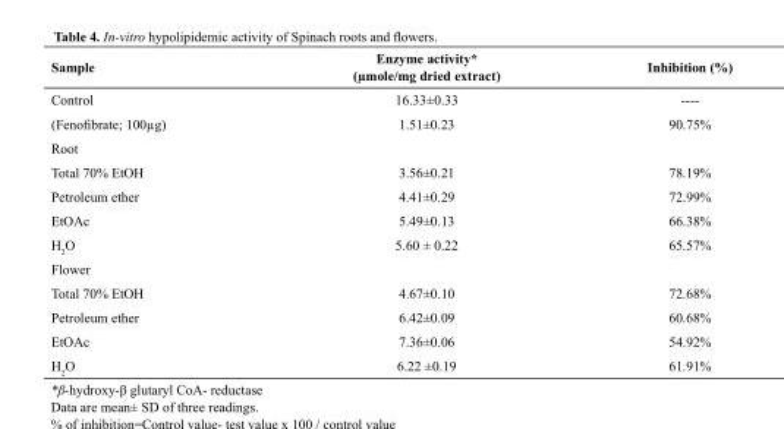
<table><tbody><tr><td>Sample</td><td>Enzyme activity* (µmole/mg dried extract)</td><td>Inhibition (%)</td></tr><tr><td>Control</td><td>16.33±0.33</td><td>----</td></tr><tr><td>(Fenofibrate; 100µg)</td><td>1.51±0.23</td><td>90.75%</td></tr><tr><td colspan="3">Root</td></tr><tr><td>Total 70% EtOH</td><td>3.56±0.21</td><td>78.19%</td></tr><tr><td>Petroleum ether</td><td>4.41±0.29</td><td>72.99%</td></tr><tr><td>EtOAc</td><td>5.49±0.13</td><td>66.38%</td></tr><tr><td>H<sub>2</sub>O</td><td>5.60 ± 0.22</td><td>65.57%</td></tr><tr><td colspan="3">Flower</td></tr><tr><td>Total 70% EtOH</td><td>4.67±0.10</td><td>72.68%</td></tr><tr><td>Petroleum ether</td><td>6.42±0.09</td><td>60.68%</td></tr><tr><td>EtOAc</td><td>7.36±0.06</td><td>54.92%</td></tr><tr><td>H<sub>2</sub>O</td><td>6.22 ±0.19</td><td>61.91%</td></tr></tbody></table>